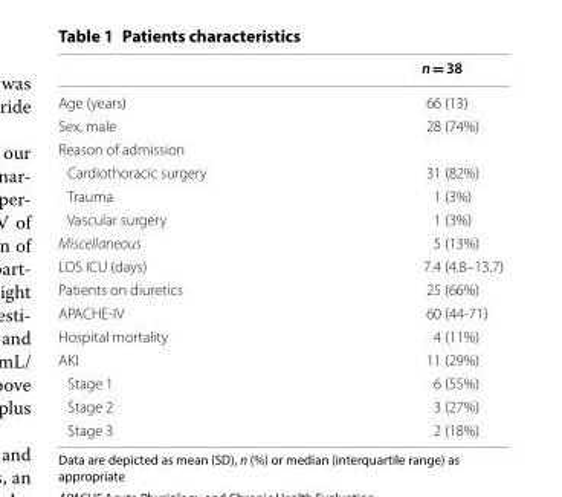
<table><thead><tr><td></td><td>n = 38</td></tr></thead><tbody><tr><td>Age (years)</td><td>66 (13)</td></tr><tr><td>Sex, male</td><td>28 (74%)</td></tr><tr><td colspan="2">Reason of admission</td></tr><tr><td>Cardiothoracic surgery</td><td>31 (82%)</td></tr><tr><td>Trauma</td><td>1 (3%)</td></tr><tr><td>Vascular surgery</td><td>1 (3%)</td></tr><tr><td>Miscellaneous</td><td>5 (13%)</td></tr><tr><td>LOS ICU (days)</td><td>7.4 (4.8–13.7)</td></tr><tr><td>Patients on diuretics</td><td>25 (66%)</td></tr><tr><td>APACHE‑IV</td><td>60 (44‑71)</td></tr><tr><td>Hospital mortality</td><td>4 (11%)</td></tr><tr><td>AKI</td><td>11 (29%)</td></tr><tr><td>Stage 1</td><td>6 (55%)</td></tr><tr><td>Stage 2</td><td>3 (27%)</td></tr><tr><td>Stage 3</td><td>2 (18%)</td></tr></tbody></table>